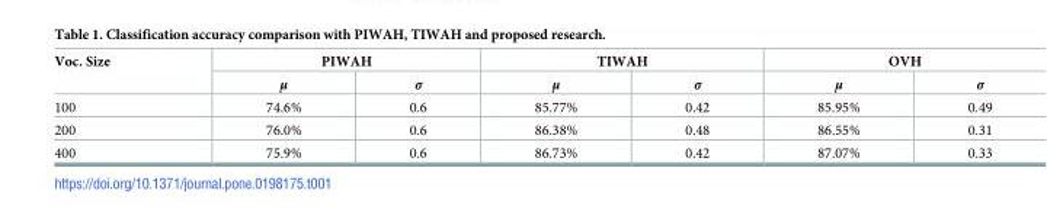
<table><thead><tr><td rowspan="2">Voc. Size</td><td colspan="2">PIWAH</td><td colspan="2">TIWAH</td><td colspan="2">OVH</td></tr><tr><td>μ</td><td>σ</td><td>μ</td><td>σ</td><td>μ</td><td>σ</td></tr></thead><tbody><tr><td>100</td><td>74.6%</td><td>0.6</td><td>85.77%</td><td>0.42</td><td>85.95%</td><td>0.49</td></tr><tr><td>200</td><td>76.0%</td><td>0.6</td><td>86.38%</td><td>0.48</td><td>86.55%</td><td>0.31</td></tr><tr><td>400</td><td>75.9%</td><td>0.6</td><td>86.73%</td><td>0.42</td><td>87.07%</td><td>0.33</td></tr></tbody></table>